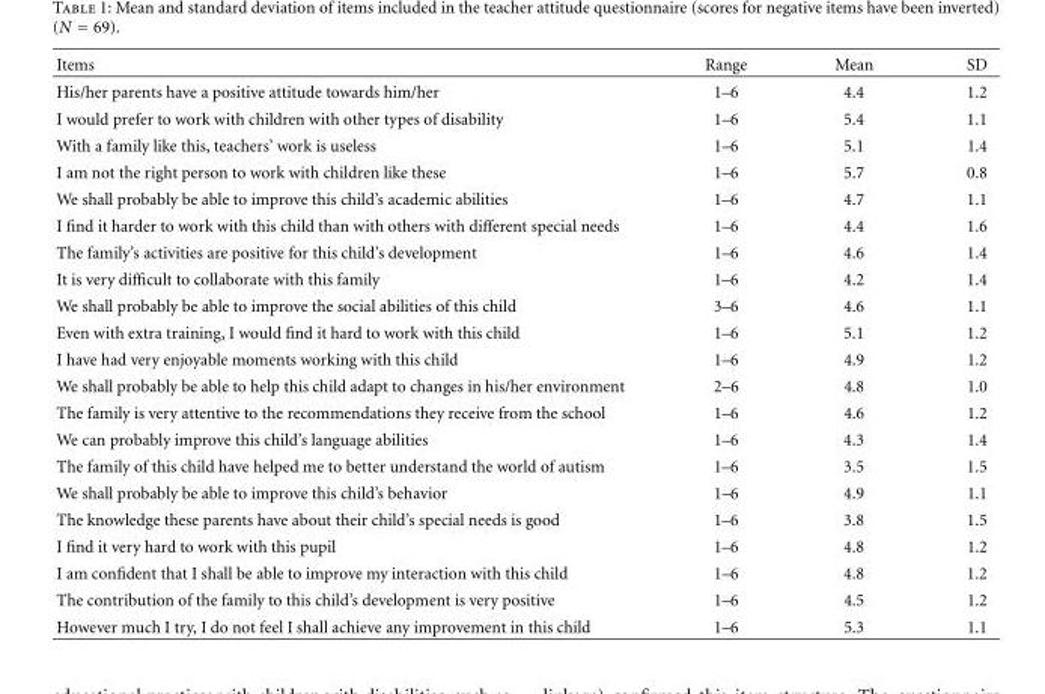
<table><thead><tr><td>Items</td><td>Range</td><td>Mean</td><td>SD</td></tr></thead><tbody><tr><td>His/her parents have a positive attitude towards him/her</td><td>1–6</td><td>4.4</td><td>1.2</td></tr><tr><td>I would prefer to work with children with other types of disability</td><td>1–6</td><td>5.4</td><td>1.1</td></tr><tr><td>With a family like this, teachers’ work is useless</td><td>1–6</td><td>5.1</td><td>1.4</td></tr><tr><td>I am not the right person to work with children like these</td><td>1–6</td><td>5.7</td><td>0.8</td></tr><tr><td>We shall probably be able to improve this child’s academic abilities</td><td>1–6</td><td>4.7</td><td>1.1</td></tr><tr><td>I find it harder to work with this child than with others with different special needs</td><td>1–6</td><td>4.4</td><td>1.6</td></tr><tr><td>The family’s activities are positive for this child’s development</td><td>1–6</td><td>4.6</td><td>1.4</td></tr><tr><td>It is very difficult to collaborate with this family</td><td>1–6</td><td>4.2</td><td>1.4</td></tr><tr><td>We shall probably be able to improve the social abilities of this child</td><td>3–6</td><td>4.6</td><td>1.1</td></tr><tr><td>Even with extra training, I would find it hard to work with this child</td><td>1–6</td><td>5.1</td><td>1.2</td></tr><tr><td>I have had very enjoyable moments working with this child</td><td>1–6</td><td>4.9</td><td>1.2</td></tr><tr><td>We shall probably be able to help this child adapt to changes in his/her environment</td><td>2–6</td><td>4.8</td><td>1.0</td></tr><tr><td>The family is very attentive to the recommendations they receive from the school</td><td>1–6</td><td>4.6</td><td>1.2</td></tr><tr><td>We can probably improve this child’s language abilities</td><td>1–6</td><td>4.3</td><td>1.4</td></tr><tr><td>The family of this child have helped me to better understand the world of autism</td><td>1–6</td><td>3.5</td><td>1.5</td></tr><tr><td>We shall probably be able to improve this child’s behavior</td><td>1–6</td><td>4.9</td><td>1.1</td></tr><tr><td>The knowledge these parents have about their child’s special needs is good</td><td>1–6</td><td>3.8</td><td>1.5</td></tr><tr><td>I find it very hard to work with this pupil</td><td>1–6</td><td>4.8</td><td>1.2</td></tr><tr><td>I am confident that I shall be able to improve my interaction with this child</td><td>1–6</td><td>4.8</td><td>1.2</td></tr><tr><td>The contribution of the family to this child’s development is very positive</td><td>1–6</td><td>4.5</td><td>1.2</td></tr><tr><td>However much I try, I do not feel I shall achieve any improvement in this child</td><td>1–6</td><td>5.3</td><td>1.1</td></tr></tbody></table>